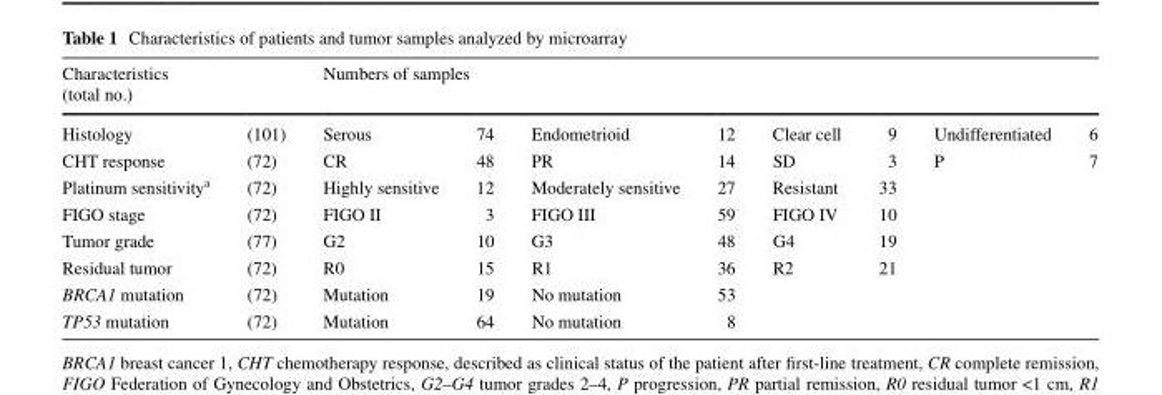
<table><thead><tr><td colspan="2">Characteristics (total no.)</td><td colspan="8">Numbers of samples</td></tr><tr><td>Histology</td><td>(101)</td><td>Serous</td><td>74</td><td>Endometrioid</td><td>12</td><td>Clear cell</td><td>9</td><td>Undifferentiated</td><td>6</td></tr></thead><tbody><tr><td>CHT response</td><td>(72)</td><td>CR</td><td>48</td><td>PR</td><td>14</td><td>SD</td><td>3</td><td>P</td><td>7</td></tr><tr><td>Platinum sensitivity<sup>a</sup></td><td>(72)</td><td>Highly sensitive</td><td>12</td><td>Moderately sensitive</td><td>27</td><td>Resistant</td><td>33</td><td colspan="2"></td></tr><tr><td>FIGO stage</td><td>(72)</td><td>FIGO II</td><td>3</td><td>FIGO III</td><td>59</td><td>FIGO IV</td><td>10</td><td colspan="2"></td></tr><tr><td>Tumor grade</td><td>(77)</td><td>G2</td><td>10</td><td>G3</td><td>48</td><td>G4</td><td>19</td><td colspan="2"></td></tr><tr><td>Residual tumor</td><td>(72)</td><td>R0</td><td>15</td><td>R1</td><td>36</td><td>R2</td><td>21</td><td colspan="2"></td></tr><tr><td>BRCA1 mutation</td><td>(72)</td><td>Mutation</td><td>19</td><td>No mutation</td><td>53</td><td colspan="2"></td><td colspan="2"></td></tr><tr><td>TP53 mutation</td><td>(72)</td><td>Mutation</td><td>64</td><td>No mutation</td><td>8</td><td colspan="2"></td><td colspan="2"></td></tr></tbody></table>